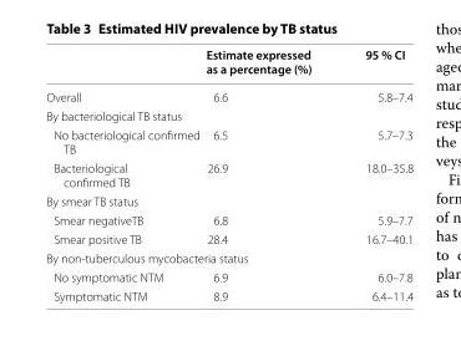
<table><thead><tr><td></td><td>Estimate expressed as a percentage (%)</td><td>95 % CI</td></tr></thead><tbody><tr><td>Overall</td><td>6.6</td><td>5.8–7.4</td></tr><tr><td colspan="3">By bacteriological TB status</td></tr><tr><td>No bacteriological confirmed TB</td><td>6.5</td><td>5.7–7.3</td></tr><tr><td>Bacteriological confirmed TB</td><td>26.9</td><td>18.0–35.8</td></tr><tr><td colspan="3">By smear TB status</td></tr><tr><td>Smear negativeTB</td><td>6.8</td><td>5.9–7.7</td></tr><tr><td>Smear positive TB</td><td>28.4</td><td>16.7–40.1</td></tr><tr><td colspan="3">By non‑tuberculous mycobacteria status</td></tr><tr><td>No symptomatic NTM</td><td>6.9</td><td>6.0–7.8</td></tr><tr><td>Symptomatic NTM</td><td>8.9</td><td>6.4–11.4</td></tr></tbody></table>